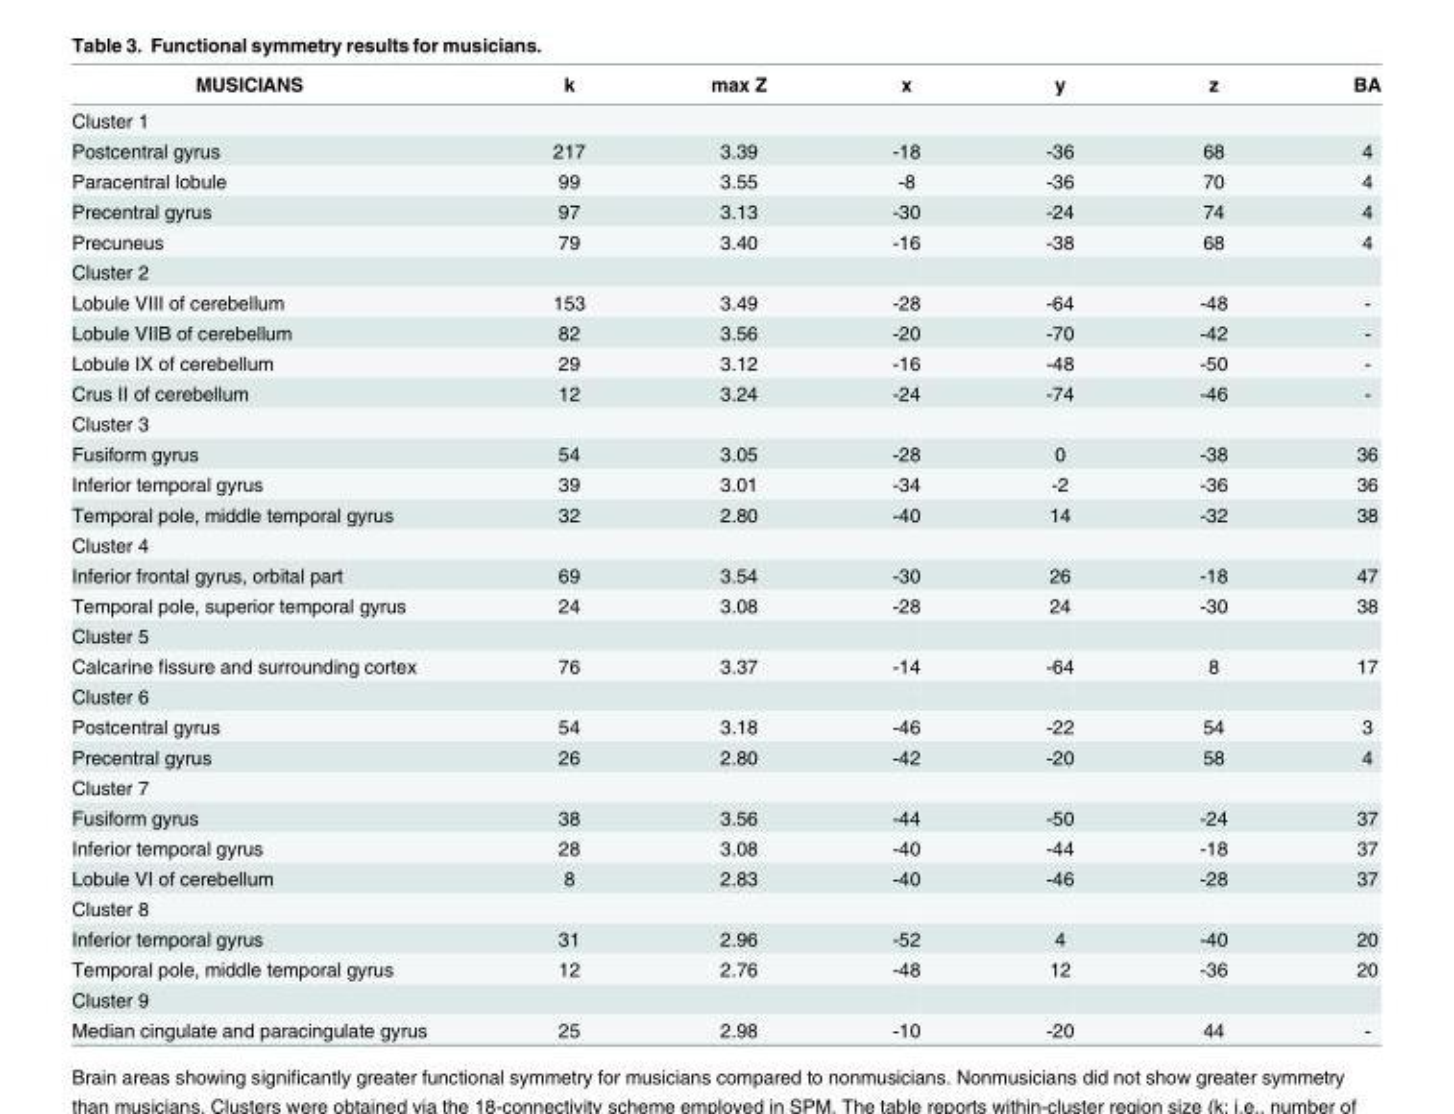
<table><thead><tr><td>MUSICIANS</td><td>k</td><td>max Z</td><td>x</td><td>y</td><td>z</td><td>BA</td></tr></thead><tbody><tr><td colspan="7">Cluster 1</td></tr><tr><td>Postcentral gyrus</td><td>217</td><td>3.39</td><td>-18</td><td>-36</td><td>68</td><td>4</td></tr><tr><td>Paracentral lobule</td><td>99</td><td>3.55</td><td>-8</td><td>-36</td><td>70</td><td>4</td></tr><tr><td>Precentral gyrus</td><td>97</td><td>3.13</td><td>-30</td><td>-24</td><td>74</td><td>4</td></tr><tr><td>Precuneus</td><td>79</td><td>3.40</td><td>-16</td><td>-38</td><td>68</td><td>4</td></tr><tr><td colspan="7">Cluster 2</td></tr><tr><td>Lobule VIII of cerebellum</td><td>153</td><td>3.49</td><td>-28</td><td>-64</td><td>-48</td><td>-</td></tr><tr><td>Lobule VIIB of cerebellum</td><td>82</td><td>3.56</td><td>-20</td><td>-70</td><td>-42</td><td>-</td></tr><tr><td>Lobule IX of cerebellum</td><td>29</td><td>3.12</td><td>-16</td><td>-48</td><td>-50</td><td>-</td></tr><tr><td>Crus II of cerebellum</td><td>12</td><td>3.24</td><td>-24</td><td>-74</td><td>-46</td><td>-</td></tr><tr><td colspan="7">Cluster 3</td></tr><tr><td>Fusiform gyrus</td><td>54</td><td>3.05</td><td>-28</td><td>0</td><td>-38</td><td>36</td></tr><tr><td>Inferior temporal gyrus</td><td>39</td><td>3.01</td><td>-34</td><td>-2</td><td>-36</td><td>36</td></tr><tr><td>Temporal pole, middle temporal gyrus</td><td>32</td><td>2.80</td><td>-40</td><td>14</td><td>-32</td><td>38</td></tr><tr><td colspan="7">Cluster 4</td></tr><tr><td>Inferior frontal gyrus, orbital part</td><td>69</td><td>3.54</td><td>-30</td><td>26</td><td>-18</td><td>47</td></tr><tr><td>Temporal pole, superior temporal gyrus</td><td>24</td><td>3.08</td><td>-28</td><td>24</td><td>-30</td><td>38</td></tr><tr><td colspan="7">Cluster 5</td></tr><tr><td>Calcarine fissure and surrounding cortex</td><td>76</td><td>3.37</td><td>-14</td><td>-64</td><td>8</td><td>17</td></tr><tr><td colspan="7">Cluster 6</td></tr><tr><td>Postcentral gyrus</td><td>54</td><td>3.18</td><td>-46</td><td>-22</td><td>54</td><td>3</td></tr><tr><td>Precentral gyrus</td><td>26</td><td>2.80</td><td>-42</td><td>-20</td><td>58</td><td>4</td></tr><tr><td colspan="7">Cluster 7</td></tr><tr><td>Fusiform gyrus</td><td>38</td><td>3.56</td><td>-44</td><td>-50</td><td>-24</td><td>37</td></tr><tr><td>Inferior temporal gyrus</td><td>28</td><td>3.08</td><td>-40</td><td>-44</td><td>-18</td><td>37</td></tr><tr><td>Lobule VI of cerebellum</td><td>8</td><td>2.83</td><td>-40</td><td>-46</td><td>-28</td><td>37</td></tr><tr><td colspan="7">Cluster 8</td></tr><tr><td>Inferior temporal gyrus</td><td>31</td><td>2.96</td><td>-52</td><td>4</td><td>-40</td><td>20</td></tr><tr><td>Temporal pole, middle temporal gyrus</td><td>12</td><td>2.76</td><td>-48</td><td>12</td><td>-36</td><td>20</td></tr><tr><td colspan="7">Cluster 9</td></tr><tr><td>Median cingulate and paracingulate gyrus</td><td>25</td><td>2.98</td><td>-10</td><td>-20</td><td>44</td><td>-</td></tr></tbody></table>